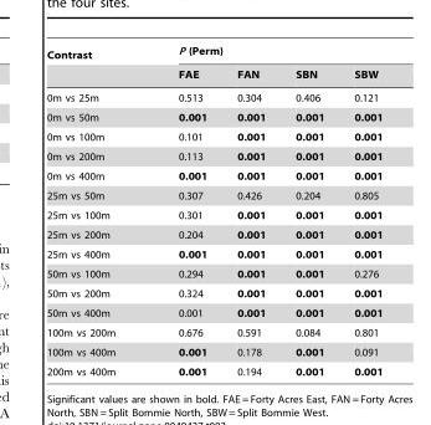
<table><thead><tr><td rowspan="2">Contrast</td><td colspan="4">P (Perm)</td></tr><tr><td>FAE</td><td>FAN</td><td>SBN</td><td>SBW</td></tr></thead><tbody><tr><td>0m vs 25m</td><td>0.513</td><td>0.304</td><td>0.406</td><td>0.121</td></tr><tr><td>0m vs 50m</td><td>0.001</td><td>0.001</td><td>0.001</td><td>0.001</td></tr><tr><td>0m vs 100m</td><td>0.101</td><td>0.001</td><td>0.001</td><td>0.001</td></tr><tr><td>0m vs 200m</td><td>0.113</td><td>0.001</td><td>0.001</td><td>0.001</td></tr><tr><td>0m vs 400m</td><td>0.001</td><td>0.001</td><td>0.001</td><td>0.001</td></tr><tr><td>25m vs 50m</td><td>0.307</td><td>0.426</td><td>0.204</td><td>0.805</td></tr><tr><td>25m vs 100m</td><td>0.301</td><td>0.001</td><td>0.001</td><td>0.001</td></tr><tr><td>25m vs 200m</td><td>0.204</td><td>0.001</td><td>0.001</td><td>0.001</td></tr><tr><td>25m vs 400m</td><td>0.001</td><td>0.001</td><td>0.001</td><td>0.001</td></tr><tr><td>50m vs 100m</td><td>0.294</td><td>0.001</td><td>0.001</td><td>0.276</td></tr><tr><td>50m vs 200m</td><td>0.324</td><td>0.001</td><td>0.001</td><td>0.001</td></tr><tr><td>50m vs 400m</td><td>0.001</td><td>0.001</td><td>0.001</td><td>0.001</td></tr><tr><td>100m vs 200m</td><td>0.676</td><td>0.591</td><td>0.084</td><td>0.801</td></tr><tr><td>100m vs 400m</td><td>0.001</td><td>0.178</td><td>0.001</td><td>0.091</td></tr><tr><td>200m vs 400m</td><td>0.001</td><td>0.194</td><td>0.001</td><td>0.001</td></tr></tbody></table>